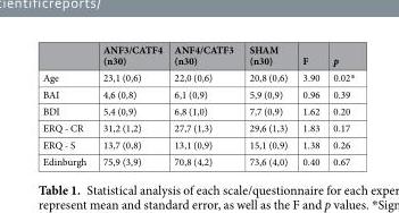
<table><thead><tr><td></td><td>ANF3/CATF4 (n30)</td><td>ANF4/CATF3 (n30)</td><td>SHAM (n30)</td><td>F</td><td>p</td></tr></thead><tbody><tr><td>Age</td><td>23,1 (0,6)</td><td>22,0 (0,6)</td><td>20,8 (0,6)</td><td>3.90</td><td>0.02*</td></tr><tr><td>BAI</td><td>4,6 (0,8)</td><td>6,1 (0,9)</td><td>5,9 (0,9)</td><td>0.96</td><td>0.39</td></tr><tr><td>BDI</td><td>5,4 (0,9)</td><td>6,8 (1,0)</td><td>7,7 (0,9)</td><td>1.62</td><td>0.20</td></tr><tr><td>ERQ - CR</td><td>31,2 (1,2)</td><td>27,7 (1,3)</td><td>29,6 (1,3)</td><td>1.83</td><td>0.17</td></tr><tr><td>ERQ - S</td><td>13,7 (0,8)</td><td>13,1 (0,9)</td><td>15,1 (0,9)</td><td>1.38</td><td>0.26</td></tr><tr><td>Edinburgh</td><td>75,9 (3,9)</td><td>70,8 (4,2)</td><td>73,6 (4,0)</td><td>0.40</td><td>0.67</td></tr></tbody></table>